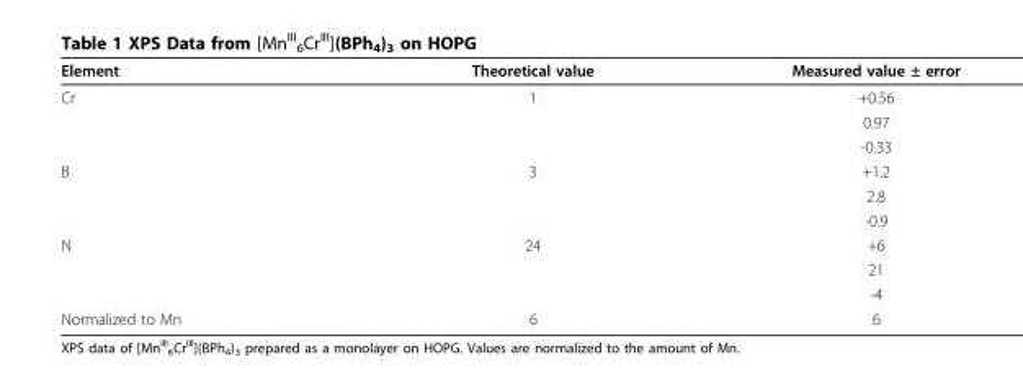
<table><thead><tr><td>Element</td><td>Theoretical value</td><td>Measured value ± error</td></tr></thead><tbody><tr><td rowspan="3">Cr</td><td>1</td><td>+0.56</td></tr><tr><td></td><td>0.97</td></tr><tr><td></td><td>-0.33</td></tr><tr><td rowspan="3">B</td><td>3</td><td>+1.2</td></tr><tr><td></td><td>2.8</td></tr><tr><td></td><td>-0.9</td></tr><tr><td rowspan="3">N</td><td>24</td><td>+6</td></tr><tr><td></td><td>21</td></tr><tr><td></td><td>-4</td></tr><tr><td>Normalized to Mn</td><td>6</td><td>6</td></tr></tbody></table>